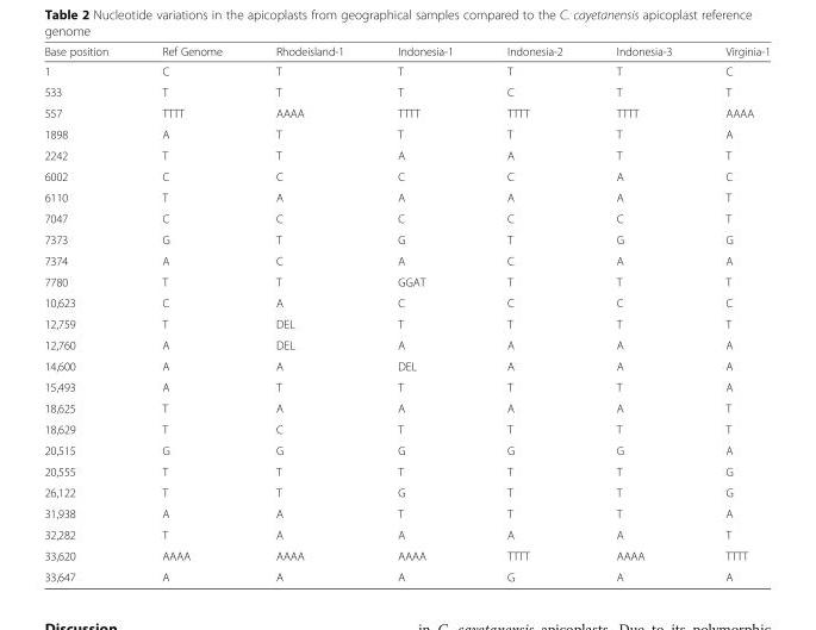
<table><thead><tr><td>Base position</td><td>Ref Genome</td><td>Rhodeisland-1</td><td>Indonesia-1</td><td>Indonesia-2</td><td>Indonesia-3</td><td>Virginia-1</td></tr></thead><tbody><tr><td>1</td><td>C</td><td>T</td><td>T</td><td>T</td><td>T</td><td>C</td></tr><tr><td>533</td><td>T</td><td>T</td><td>T</td><td>C</td><td>T</td><td>T</td></tr><tr><td>557</td><td>TTTT</td><td>AAAA</td><td>TTTT</td><td>TTTT</td><td>TTTT</td><td>AAAA</td></tr><tr><td>1898</td><td>A</td><td>T</td><td>T</td><td>T</td><td>T</td><td>A</td></tr><tr><td>2242</td><td>T</td><td>T</td><td>A</td><td>A</td><td>T</td><td>T</td></tr><tr><td>6002</td><td>C</td><td>C</td><td>C</td><td>C</td><td>A</td><td>C</td></tr><tr><td>6110</td><td>T</td><td>A</td><td>A</td><td>A</td><td>A</td><td>T</td></tr><tr><td>7047</td><td>C</td><td>C</td><td>C</td><td>C</td><td>C</td><td>T</td></tr><tr><td>7373</td><td>G</td><td>T</td><td>G</td><td>T</td><td>G</td><td>G</td></tr><tr><td>7374</td><td>A</td><td>C</td><td>A</td><td>C</td><td>A</td><td>A</td></tr><tr><td>7780</td><td>T</td><td>T</td><td>GGAT</td><td>T</td><td>T</td><td>T</td></tr><tr><td>10,623</td><td>C</td><td>A</td><td>C</td><td>C</td><td>C</td><td>C</td></tr><tr><td>12,759</td><td>T</td><td>DEL</td><td>T</td><td>T</td><td>T</td><td>T</td></tr><tr><td>12,760</td><td>A</td><td>DEL</td><td>A</td><td>A</td><td>A</td><td>A</td></tr><tr><td>14,600</td><td>A</td><td>A</td><td>DEL</td><td>A</td><td>A</td><td>A</td></tr><tr><td>15,493</td><td>A</td><td>T</td><td>T</td><td>T</td><td>T</td><td>A</td></tr><tr><td>18,625</td><td>T</td><td>A</td><td>A</td><td>A</td><td>A</td><td>T</td></tr><tr><td>18,629</td><td>T</td><td>C</td><td>T</td><td>T</td><td>T</td><td>T</td></tr><tr><td>20,515</td><td>G</td><td>G</td><td>G</td><td>G</td><td>G</td><td>A</td></tr><tr><td>20,555</td><td>T</td><td>T</td><td>T</td><td>T</td><td>T</td><td>G</td></tr><tr><td>26,122</td><td>T</td><td>T</td><td>G</td><td>T</td><td>T</td><td>G</td></tr><tr><td>31,938</td><td>A</td><td>A</td><td>T</td><td>T</td><td>T</td><td>A</td></tr><tr><td>32,282</td><td>T</td><td>A</td><td>A</td><td>A</td><td>A</td><td>T</td></tr><tr><td>33,620</td><td>AAAA</td><td>AAAA</td><td>AAAA</td><td>TTTT</td><td>AAAA</td><td>TTTT</td></tr><tr><td>33,647</td><td>A</td><td>A</td><td>A</td><td>G</td><td>A</td><td>A</td></tr></tbody></table>